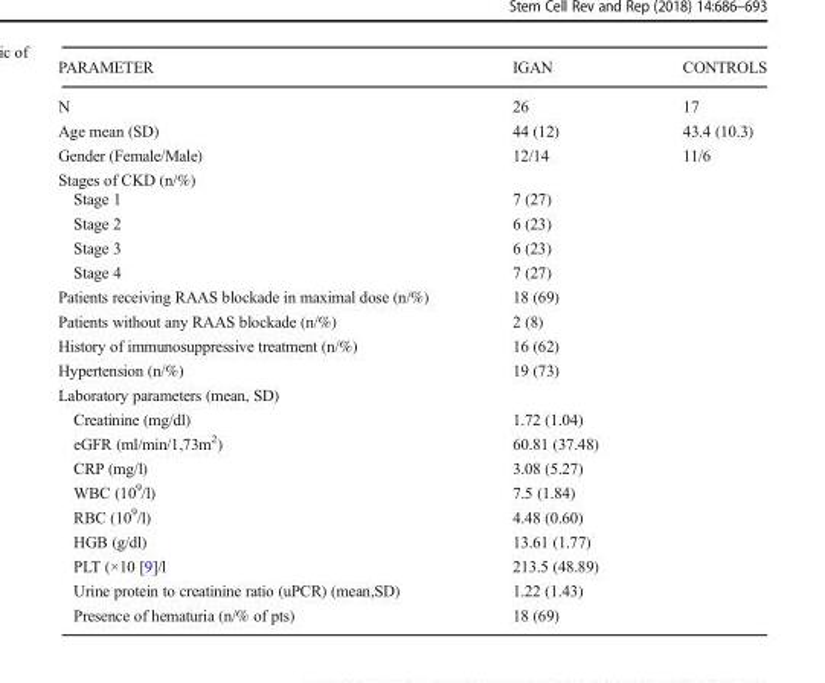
<table><thead><tr><td>PARAMETER</td><td>IGAN</td><td>CONTROLS</td></tr></thead><tbody><tr><td>N</td><td>26</td><td>17</td></tr><tr><td>Age mean (SD)</td><td>44 (12)</td><td>43.4 (10.3)</td></tr><tr><td>Gender (Female/Male)</td><td>12/14</td><td>11/6</td></tr><tr><td colspan="2">Stages of CKD (n/%)</td><td rowspan="19"></td></tr><tr><td>Stage 1</td><td>7 (27)</td></tr><tr><td>Stage 2</td><td>6 (23)</td></tr><tr><td>Stage 3</td><td>6 (23)</td></tr><tr><td>Stage 4</td><td>7 (27)</td></tr><tr><td>Patients receiving RAAS blockade in maximal dose (n/%)</td><td>18 (69)</td></tr><tr><td>Patients without any RAAS blockade (n/%)</td><td>2 (8)</td></tr><tr><td>History of immunosuppressive treatment (n/%)</td><td>16 (62)</td></tr><tr><td>Hypertension (n/%)</td><td>19 (73)</td></tr><tr><td colspan="2">Laboratory parameters (mean, SD)</td></tr><tr><td>Creatinine (mg/dl)</td><td>1.72 (1.04)</td></tr><tr><td>eGFR (ml/min/1,73m<sup>2</sup>)</td><td>60.81 (37.48)</td></tr><tr><td>CRP (mg/l)</td><td>3.08 (5.27)</td></tr><tr><td>WBC (10<sup>9</sup>/l)</td><td>7.5 (1.84)</td></tr><tr><td>RBC (10<sup>9</sup>/l)</td><td>4.48 (0.60)</td></tr><tr><td>HGB (g/dl)</td><td>13.61 (1.77)</td></tr><tr><td>PLT (×10 [9]/l</td><td>213.5 (48.89)</td></tr><tr><td>Urine protein to creatinine ratio (uPCR) (mean,SD)</td><td>1.22 (1.43)</td></tr><tr><td>Presence of hematuria (n/% of pts)</td><td>18 (69)</td></tr></tbody></table>